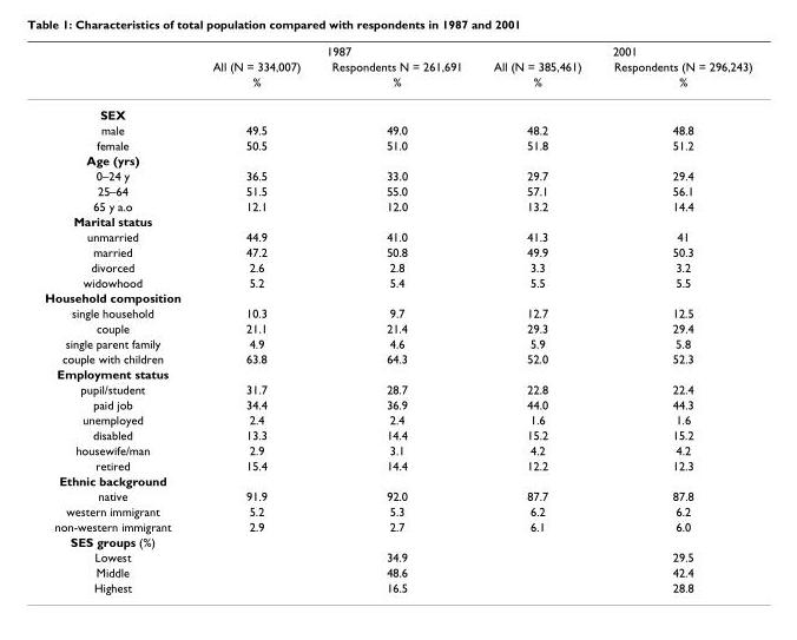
<table><thead><tr><td rowspan="3"></td><td colspan="2">1987</td><td colspan="2">2001</td></tr><tr><td rowspan="2">All (N = 334,007) %</td><td rowspan="2">Respondents N = 261,691 %</td><td rowspan="2">All (N = 385,461) %</td><td rowspan="2">Respondents (N = 296,243) %</td></tr><tr></tr></thead><tbody><tr><td colspan="5">SEX</td></tr><tr><td>male</td><td>49.5</td><td>49.0</td><td>48.2</td><td>48.8</td></tr><tr><td>female</td><td>50.5</td><td>51.0</td><td>51.8</td><td>51.2</td></tr><tr><td colspan="5">Age (yrs)</td></tr><tr><td>0–24 y</td><td>36.5</td><td>33.0</td><td>29.7</td><td>29.4</td></tr><tr><td>25–64</td><td>51.5</td><td>55.0</td><td>57.1</td><td>56.1</td></tr><tr><td>65 y a.o</td><td>12.1</td><td>12.0</td><td>13.2</td><td>14.4</td></tr><tr><td colspan="5">Marital status</td></tr><tr><td>unmarried</td><td>44.9</td><td>41.0</td><td>41.3</td><td>41</td></tr><tr><td>married</td><td>47.2</td><td>50.8</td><td>49.9</td><td>50.3</td></tr><tr><td>divorced</td><td>2.6</td><td>2.8</td><td>3.3</td><td>3.2</td></tr><tr><td>widowhood</td><td>5.2</td><td>5.4</td><td>5.5</td><td>5.5</td></tr><tr><td colspan="5">Household composition</td></tr><tr><td>single household</td><td>10.3</td><td>9.7</td><td>12.7</td><td>12.5</td></tr><tr><td>couple</td><td>21.1</td><td>21.4</td><td>29.3</td><td>29.4</td></tr><tr><td>single parent family</td><td>4.9</td><td>4.6</td><td>5.9</td><td>5.8</td></tr><tr><td>couple with children</td><td>63.8</td><td>64.3</td><td>52.0</td><td>52.3</td></tr><tr><td colspan="5">Employment status</td></tr><tr><td>pupil/student</td><td>31.7</td><td>28.7</td><td>22.8</td><td>22.4</td></tr><tr><td>paid job</td><td>34.4</td><td>36.9</td><td>44.0</td><td>44.3</td></tr><tr><td>unemployed</td><td>2.4</td><td>2.4</td><td>1.6</td><td>1.6</td></tr><tr><td>disabled</td><td>13.3</td><td>14.4</td><td>15.2</td><td>15.2</td></tr><tr><td>housewife/man</td><td>2.9</td><td>3.1</td><td>4.2</td><td>4.2</td></tr><tr><td>retired</td><td>15.4</td><td>14.4</td><td>12.2</td><td>12.3</td></tr><tr><td colspan="5">Ethnic background</td></tr><tr><td>native</td><td>91.9</td><td>92.0</td><td>87.7</td><td>87.8</td></tr><tr><td>western immigrant</td><td>5.2</td><td>5.3</td><td>6.2</td><td>6.2</td></tr><tr><td>non-western immigrant</td><td>2.9</td><td>2.7</td><td>6.1</td><td>6.0</td></tr><tr><td colspan="5">SES groups (%)</td></tr><tr><td>Lowest</td><td></td><td>34.9</td><td></td><td>29.5</td></tr><tr><td>Middle</td><td></td><td>48.6</td><td></td><td>42.4</td></tr><tr><td>Highest</td><td></td><td>16.5</td><td></td><td>28.8</td></tr></tbody></table>